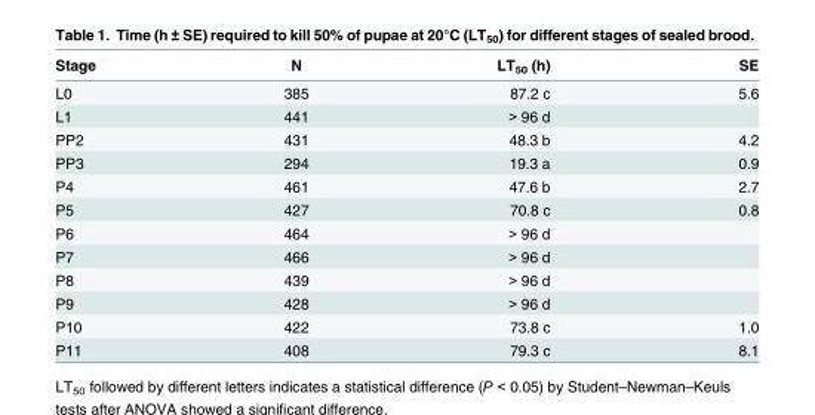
<table><thead><tr><td>Stage</td><td>N</td><td>LT<sub>50</sub> (h)</td><td>SE</td></tr></thead><tbody><tr><td>L0</td><td>385</td><td>87.2 c</td><td>5.6</td></tr><tr><td>L1</td><td>441</td><td>&gt; 96 d</td><td></td></tr><tr><td>PP2</td><td>431</td><td>48.3 b</td><td>4.2</td></tr><tr><td>PP3</td><td>294</td><td>19.3 a</td><td>0.9</td></tr><tr><td>P4</td><td>461</td><td>47.6 b</td><td>2.7</td></tr><tr><td>P5</td><td>427</td><td>70.8 c</td><td>0.8</td></tr><tr><td>P6</td><td>464</td><td>&gt; 96 d</td><td></td></tr><tr><td>P7</td><td>466</td><td>&gt; 96 d</td><td></td></tr><tr><td>P8</td><td>439</td><td>&gt; 96 d</td><td></td></tr><tr><td>P9</td><td>428</td><td>&gt; 96 d</td><td></td></tr><tr><td>P10</td><td>422</td><td>73.8 c</td><td>1.0</td></tr><tr><td>P11</td><td>408</td><td>79.3 c</td><td>8.1</td></tr></tbody></table>